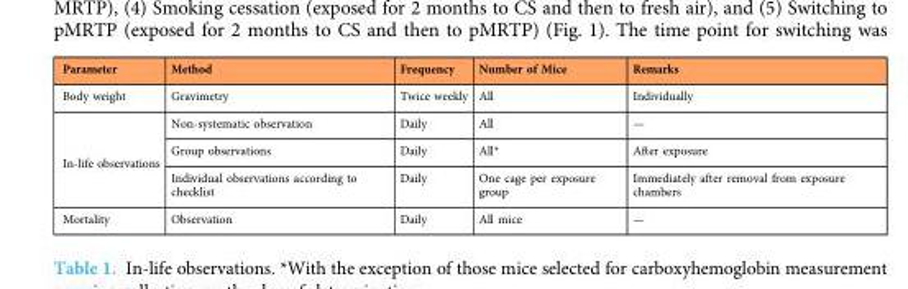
<table><thead><tr><td>Parameter</td><td>Method</td><td>Frequency</td><td>Number of Mice</td><td>Remarks</td></tr></thead><tbody><tr><td>Body weight</td><td>Gravimetry</td><td>Twice weekly</td><td>All</td><td>Individually</td></tr><tr><td rowspan="3">In-life observations</td><td>Non-systematic observation</td><td>Daily</td><td>All</td><td>—</td></tr><tr><td>Group observations</td><td>Daily</td><td>All*</td><td>After exposure</td></tr><tr><td>Individual observations according to checklist</td><td>Daily</td><td>One cage per exposure group</td><td>Immediately after removal from exposure chambers</td></tr><tr><td>Mortality</td><td>Observation</td><td>Daily</td><td>All mice</td><td>—</td></tr></tbody></table>